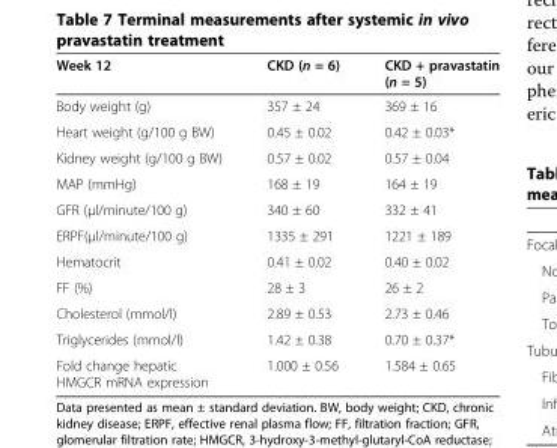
<table><thead><tr><td>Week 12</td><td>CKD (n = 6)</td><td>CKD + pravastatin (n = 5)</td></tr></thead><tbody><tr><td>Body weight (g)</td><td>357 ± 24</td><td>369 ± 16</td></tr><tr><td>Heart weight (g/100 g BW)</td><td>0.45 ± 0.02</td><td>0.42 ± 0.03*</td></tr><tr><td>Kidney weight (g/100 g BW)</td><td>0.57 ± 0.02</td><td>0.57 ± 0.04</td></tr><tr><td>MAP (mmHg)</td><td>168 ± 19</td><td>164 ± 19</td></tr><tr><td>GFR (μl/minute/100 g)</td><td>340 ± 60</td><td>332 ± 41</td></tr><tr><td>ERPF(μl/minute/100 g)</td><td>1335 ± 291</td><td>1221 ± 189</td></tr><tr><td>Hematocrit</td><td>0.41 ± 0.02</td><td>0.40 ± 0.02</td></tr><tr><td>FF (%)</td><td>28 ± 3</td><td>26 ± 2</td></tr><tr><td>Cholesterol (mmol/l)</td><td>2.89 ± 0.53</td><td>2.73 ± 0.46</td></tr><tr><td>Triglycerides (mmol/l)</td><td>1.42 ± 0.38</td><td>0.70 ± 0.37*</td></tr><tr><td>Fold change hepatic HMGCR mRNA expression</td><td>1.000 ± 0.56</td><td>1.584 ± 0.65</td></tr></tbody></table>